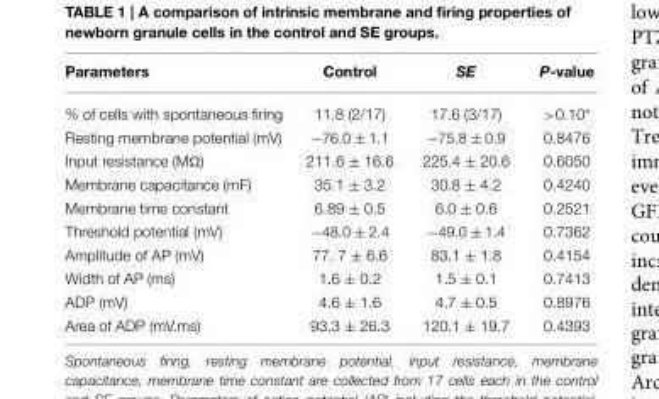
<table><thead><tr><td>Parameters</td><td>Control</td><td>SE</td><td>P-value</td></tr></thead><tbody><tr><td>% of cells with spontaneous firing</td><td>11.8 (2/17)</td><td>17.6 (3/17)</td><td>&gt;0.10*</td></tr><tr><td>Resting membrane potential (mV)</td><td>−76.0 ± 1.1</td><td>−75.8 ± 0.9</td><td>0.8476</td></tr><tr><td>Input resistance (MΩ)</td><td>211.6 ± 16.6</td><td>225.4 ± 20.6</td><td>0.6050</td></tr><tr><td>Membrane capacitance (mF)</td><td>35.1 ± 3.2</td><td>30.8 ± 4.2</td><td>0.4240</td></tr><tr><td>Membrane time constant</td><td>6.89 ± 0.5</td><td>6.0 ± 0.6</td><td>0.2521</td></tr><tr><td>Threshold potential (mV)</td><td>−48.0 ± 2.4</td><td>−49.0 ± 1.4</td><td>0.7362</td></tr><tr><td>Amplitude of AP (mV)</td><td>77. 7 ± 6.6</td><td>83.1 ± 1.8</td><td>0.4154</td></tr><tr><td>Width of AP (ms)</td><td>1.6 ± 0.2</td><td>1.5 ± 0.1</td><td>0.7413</td></tr><tr><td>ADP (mV)</td><td>4.6 ± 1.6</td><td>4.7 ± 0.5</td><td>0.8976</td></tr><tr><td>Area of ADP (mV.ms)</td><td>93.3 ± 26.3</td><td>120.1 ± 19.7</td><td>0.4393</td></tr></tbody></table>